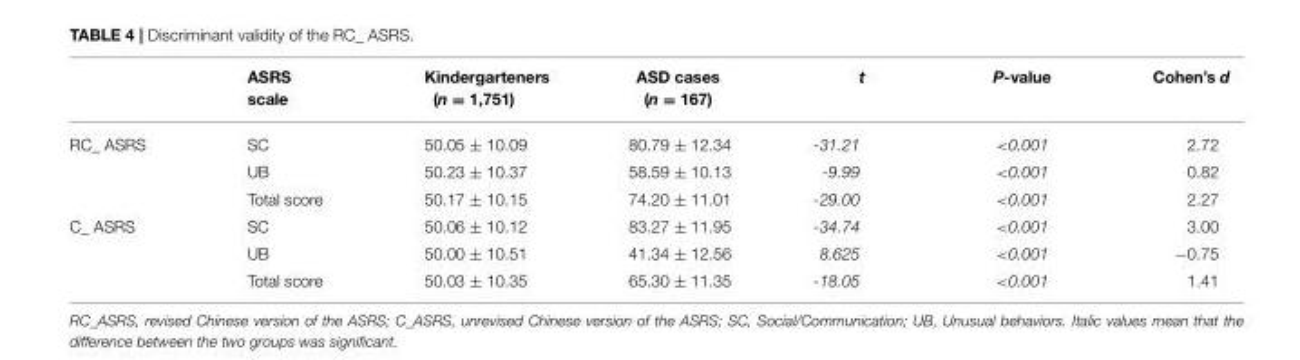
<table><thead><tr><td></td><td>ASRS scale</td><td>Kindergarteners (n = 1,751)</td><td>ASD cases (n = 167)</td><td>t</td><td>P-value</td><td>Cohen’s d</td></tr></thead><tbody><tr><td rowspan="3">RC_ ASRS</td><td>SC</td><td>50.05 ± 10.09</td><td>80.79 ± 12.34</td><td>-31.21</td><td>&lt;0.001</td><td>2.72</td></tr><tr><td>UB</td><td>50.23 ± 10.37</td><td>58.59 ± 10.13</td><td>-9.99</td><td>&lt;0.001</td><td>0.82</td></tr><tr><td>Total score</td><td>50.17 ± 10.15</td><td>74.20 ± 11.01</td><td>-29.00</td><td>&lt;0.001</td><td>2.27</td></tr><tr><td rowspan="3">C_ ASRS</td><td>SC</td><td>50.06 ± 10.12</td><td>83.27 ± 11.95</td><td>-34.74</td><td>&lt;0.001</td><td>3.00</td></tr><tr><td>UB</td><td>50.00 ± 10.51</td><td>41.34 ± 12.56</td><td>8.625</td><td>&lt;0.001</td><td>−0.75</td></tr><tr><td>Total score</td><td>50.03 ± 10.35</td><td>65.30 ± 11.35</td><td>-18.05</td><td>&lt;0.001</td><td>1.41</td></tr></tbody></table>